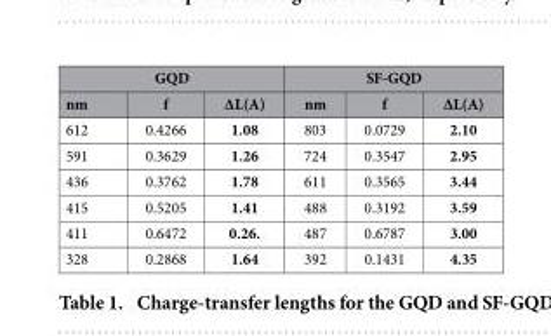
<table><thead><tr><td colspan="3">GQD</td><td colspan="3">SF-GQD</td></tr><tr><td>nm</td><td>f</td><td>ΔL(A)</td><td>nm</td><td>f</td><td>ΔL(A)</td></tr></thead><tbody><tr><td>612</td><td>0.4266</td><td>1.08</td><td>803</td><td>0.0729</td><td>2.10</td></tr><tr><td>591</td><td>0.3629</td><td>1.26</td><td>724</td><td>0.3547</td><td>2.95</td></tr><tr><td>436</td><td>0.3762</td><td>1.78</td><td>611</td><td>0.3565</td><td>3.44</td></tr><tr><td>415</td><td>0.5205</td><td>1.41</td><td>488</td><td>0.3192</td><td>3.59</td></tr><tr><td>411</td><td>0.6472</td><td>0.26.</td><td>487</td><td>0.6787</td><td>3.00</td></tr><tr><td>328</td><td>0.2868</td><td>1.64</td><td>392</td><td>0.1431</td><td>4.35</td></tr></tbody></table>